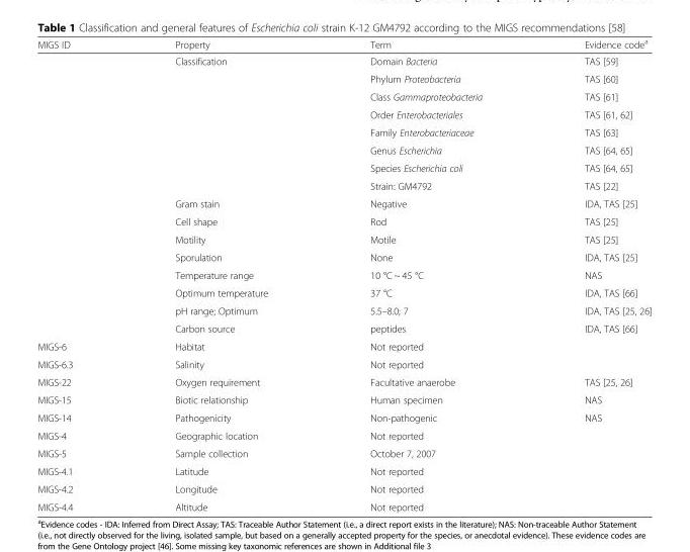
<table><thead><tr><td>MIGS ID</td><td>Property</td><td>Term</td><td>Evidence code<sup>a</sup></td></tr></thead><tbody><tr><td></td><td>Classification</td><td>Domain Bacteria</td><td>TAS [59]</td></tr><tr><td></td><td></td><td>Phylum Proteobacteria</td><td>TAS [60]</td></tr><tr><td></td><td></td><td>Class Gammaproteobacteria</td><td>TAS [61]</td></tr><tr><td></td><td></td><td>Order Enterobacteriales</td><td>TAS [61, 62]</td></tr><tr><td></td><td></td><td>Family Enterobacteriaceae</td><td>TAS [63]</td></tr><tr><td></td><td></td><td>Genus Escherichia</td><td>TAS [64, 65]</td></tr><tr><td></td><td></td><td>Species Escherichia coli</td><td>TAS [64, 65]</td></tr><tr><td></td><td></td><td>Strain: GM4792</td><td>TAS [22]</td></tr><tr><td></td><td>Gram stain</td><td>Negative</td><td>IDA, TAS [25]</td></tr><tr><td></td><td>Cell shape</td><td>Rod</td><td>TAS [25]</td></tr><tr><td></td><td>Motility</td><td>Motile</td><td>TAS [25]</td></tr><tr><td></td><td>Sporulation</td><td>None</td><td>IDA, TAS [25]</td></tr><tr><td></td><td>Temperature range</td><td>10 °C ~ 45 °C</td><td>NAS</td></tr><tr><td></td><td>Optimum temperature</td><td>37 °C</td><td>IDA, TAS [66]</td></tr><tr><td></td><td>pH range; Optimum</td><td>5.5–8.0; 7</td><td>IDA, TAS [25, 26]</td></tr><tr><td></td><td>Carbon source</td><td>peptides</td><td>IDA, TAS [66]</td></tr><tr><td>MIGS-6</td><td>Habitat</td><td>Not reported</td><td></td></tr><tr><td>MIGS-6.3</td><td>Salinity</td><td>Not reported</td><td></td></tr><tr><td>MIGS-22</td><td>Oxygen requirement</td><td>Facultative anaerobe</td><td>TAS [25, 26]</td></tr><tr><td>MIGS-15</td><td>Biotic relationship</td><td>Human specimen</td><td>NAS</td></tr><tr><td>MIGS-14</td><td>Pathogenicity</td><td>Non-pathogenic</td><td>NAS</td></tr><tr><td>MIGS-4</td><td>Geographic location</td><td>Not reported</td><td></td></tr><tr><td>MIGS-5</td><td>Sample collection</td><td>October 7, 2007</td><td></td></tr><tr><td>MIGS-4.1</td><td>Latitude</td><td>Not reported</td><td></td></tr><tr><td>MIGS-4.2</td><td>Longitude</td><td>Not reported</td><td></td></tr><tr><td>MIGS-4.4</td><td>Altitude</td><td>Not reported</td><td></td></tr></tbody></table>